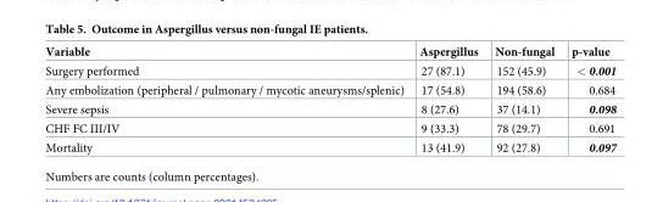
<table><thead><tr><td>Variable</td><td>Aspergillus</td><td>Non-fungal</td><td>p-value</td></tr></thead><tbody><tr><td>Surgery performed</td><td>27 (87.1)</td><td>152 (45.9)</td><td>&lt; 0.001</td></tr><tr><td>Any embolization (peripheral / pulmonary / mycotic aneurysms/splenic)</td><td>17 (54.8)</td><td>194 (58.6)</td><td>0.684</td></tr><tr><td>Severe sepsis</td><td>8 (27.6)</td><td>37 (14.1)</td><td>0.098</td></tr><tr><td>CHF FC III/IV</td><td>9 (33.3)</td><td>78 (29.7)</td><td>0.691</td></tr><tr><td>Mortality</td><td>13 (41.9)</td><td>92 (27.8)</td><td>0.097</td></tr></tbody></table>